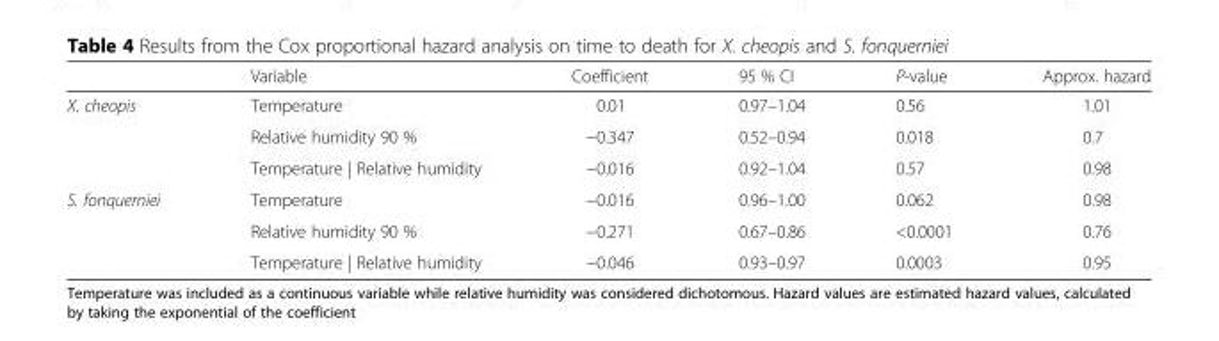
<table><thead><tr><td></td><td>Variable</td><td>Coefficient</td><td>95 % CI</td><td>P-value</td><td>Approx. hazard</td></tr></thead><tbody><tr><td rowspan="3">X. cheopis</td><td>Temperature</td><td>0.01</td><td>0.97–1.04</td><td>0.56</td><td>1.01</td></tr><tr><td>Relative humidity 90 %</td><td>−0.347</td><td>0.52–0.94</td><td>0.018</td><td>0.7</td></tr><tr><td>Temperature | Relative humidity</td><td>−0.016</td><td>0.92–1.04</td><td>0.57</td><td>0.98</td></tr><tr><td rowspan="3">S. fonquerniei</td><td>Temperature</td><td>−0.016</td><td>0.96–1.00</td><td>0.062</td><td>0.98</td></tr><tr><td>Relative humidity 90 %</td><td>−0.271</td><td>0.67–0.86</td><td>&lt;0.0001</td><td>0.76</td></tr><tr><td>Temperature | Relative humidity</td><td>−0.046</td><td>0.93–0.97</td><td>0.0003</td><td>0.95</td></tr></tbody></table>